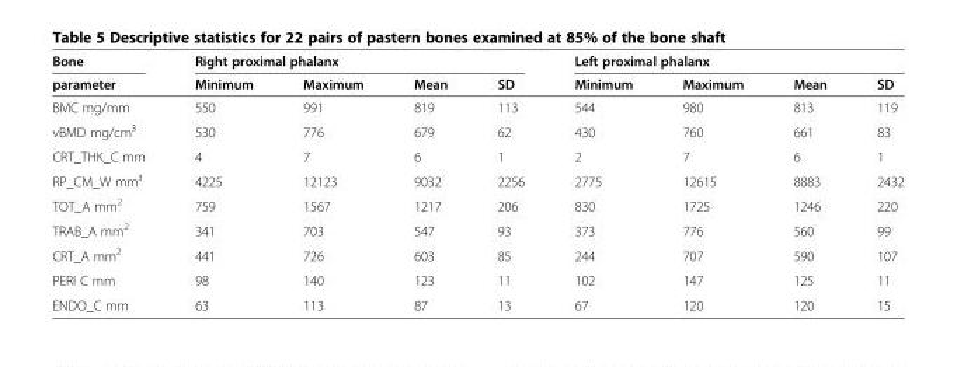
<table><thead><tr><td rowspan="2">Bone parameter</td><td colspan="4">Right proximal phalanx</td><td colspan="4">Left proximal phalanx</td></tr><tr><td>Minimum</td><td>Maximum</td><td>Mean</td><td>SD</td><td>Minimum</td><td>Maximum</td><td>Mean</td><td>SD</td></tr></thead><tbody><tr><td>BMC mg/mm</td><td>550</td><td>991</td><td>819</td><td>113</td><td>544</td><td>980</td><td>813</td><td>119</td></tr><tr><td>vBMD mg/cm³</td><td>530</td><td>776</td><td>679</td><td>62</td><td>430</td><td>760</td><td>661</td><td>83</td></tr><tr><td>CRT_THK_C mm</td><td>4</td><td>7</td><td>6</td><td>1</td><td>2</td><td>7</td><td>6</td><td>1</td></tr><tr><td>RP_CM_W mm³</td><td>4225</td><td>12123</td><td>9032</td><td>2256</td><td>2775</td><td>12615</td><td>8883</td><td>2432</td></tr><tr><td>TOT_A mm<sup>2</sup></td><td>759</td><td>1567</td><td>1217</td><td>206</td><td>830</td><td>1725</td><td>1246</td><td>220</td></tr><tr><td>TRAB_A mm<sup>2</sup></td><td>341</td><td>703</td><td>547</td><td>93</td><td>373</td><td>776</td><td>560</td><td>99</td></tr><tr><td>CRT_A mm<sup>2</sup></td><td>441</td><td>726</td><td>603</td><td>85</td><td>244</td><td>707</td><td>590</td><td>107</td></tr><tr><td>PERI C mm</td><td>98</td><td>140</td><td>123</td><td>11</td><td>102</td><td>147</td><td>125</td><td>11</td></tr><tr><td>ENDO_C mm</td><td>63</td><td>113</td><td>87</td><td>13</td><td>67</td><td>120</td><td>120</td><td>15</td></tr></tbody></table>